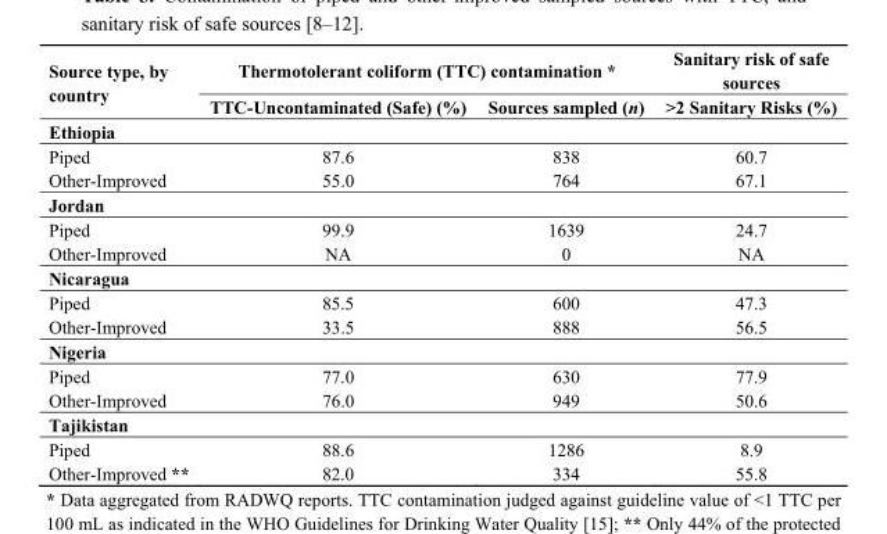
<table><thead><tr><td rowspan="2">Source type, by country</td><td colspan="2">Thermotolerant coliform (TTC) contamination *</td><td rowspan="2">Sanitary risk of safe sources &gt;2 Sanitary Risks (%)</td></tr><tr><td>TTC-Uncontaminated (Safe) (%)</td><td>Sources sampled (n)</td></tr></thead><tbody><tr><td colspan="4">Ethiopia</td></tr><tr><td>Piped</td><td>87.6</td><td>838</td><td>60.7</td></tr><tr><td>Other-Improved</td><td>55.0</td><td>764</td><td>67.1</td></tr><tr><td colspan="4">Jordan</td></tr><tr><td>Piped</td><td>99.9</td><td>1639</td><td>24.7</td></tr><tr><td>Other-Improved</td><td>NA</td><td>0</td><td>NA</td></tr><tr><td colspan="4">Nicaragua</td></tr><tr><td>Piped</td><td>85.5</td><td>600</td><td>47.3</td></tr><tr><td>Other-Improved</td><td>33.5</td><td>888</td><td>56.5</td></tr><tr><td colspan="4">Nigeria</td></tr><tr><td>Piped</td><td>77.0</td><td>630</td><td>77.9</td></tr><tr><td>Other-Improved</td><td>76.0</td><td>949</td><td>50.6</td></tr><tr><td colspan="4">Tajikistan</td></tr><tr><td>Piped</td><td>88.6</td><td>1286</td><td>8.9</td></tr><tr><td>Other-Improved **</td><td>82.0</td><td>334</td><td>55.8</td></tr></tbody></table>